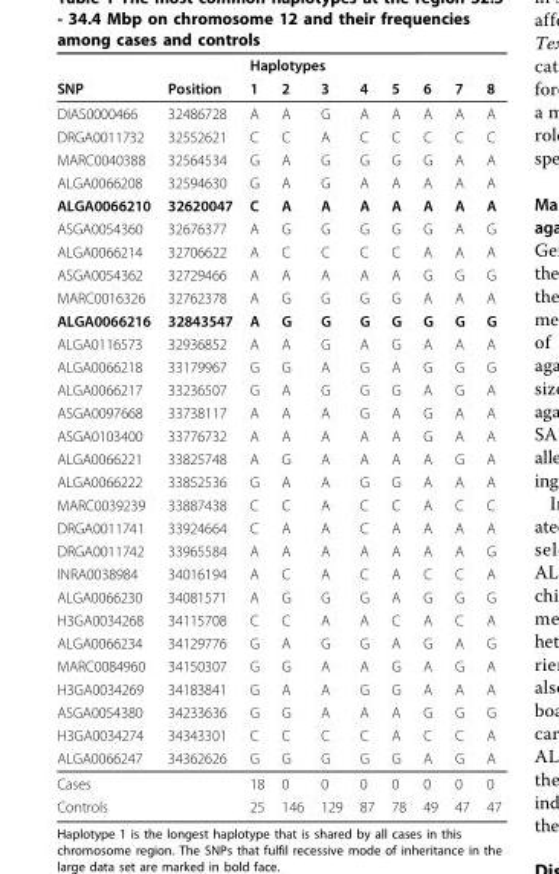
<table><thead><tr><td rowspan="2">SNP</td><td rowspan="2">Position</td><td colspan="8">Haplotypes</td></tr><tr><td>1</td><td>2</td><td>3</td><td>4</td><td>5</td><td>6</td><td>7</td><td>8</td></tr></thead><tbody><tr><td>DIAS0000466</td><td>32486728</td><td>A</td><td>A</td><td>G</td><td>A</td><td>A</td><td>A</td><td>A</td><td>A</td></tr><tr><td>DRGA0011732</td><td>32552621</td><td>C</td><td>C</td><td>A</td><td>C</td><td>C</td><td>C</td><td>C</td><td>C</td></tr><tr><td>MARC0040388</td><td>32564534</td><td>G</td><td>A</td><td>G</td><td>G</td><td>G</td><td>G</td><td>A</td><td>A</td></tr><tr><td>ALGA0066208</td><td>32594630</td><td>G</td><td>A</td><td>G</td><td>A</td><td>A</td><td>A</td><td>A</td><td>A</td></tr><tr><td>ALGA0066210</td><td>32620047</td><td>C</td><td>A</td><td>A</td><td>A</td><td>A</td><td>A</td><td>A</td><td>A</td></tr><tr><td>ASGA0054360</td><td>32676377</td><td>A</td><td>G</td><td>G</td><td>G</td><td>G</td><td>G</td><td>A</td><td>G</td></tr><tr><td>ALGA0066214</td><td>32706622</td><td>A</td><td>C</td><td>C</td><td>C</td><td>C</td><td>A</td><td>A</td><td>A</td></tr><tr><td>ASGA0054362</td><td>32729466</td><td>A</td><td>A</td><td>A</td><td>A</td><td>A</td><td>G</td><td>G</td><td>G</td></tr><tr><td>MARC0016326</td><td>32762378</td><td>A</td><td>G</td><td>G</td><td>G</td><td>G</td><td>A</td><td>A</td><td>A</td></tr><tr><td>ALGA0066216</td><td>32843547</td><td>A</td><td>G</td><td>G</td><td>G</td><td>G</td><td>G</td><td>G</td><td>G</td></tr><tr><td>ALGA0116573</td><td>32936852</td><td>A</td><td>A</td><td>G</td><td>A</td><td>G</td><td>A</td><td>A</td><td>A</td></tr><tr><td>ALGA0066218</td><td>33179967</td><td>G</td><td>G</td><td>A</td><td>G</td><td>A</td><td>G</td><td>G</td><td>G</td></tr><tr><td>ALGA0066217</td><td>33236507</td><td>G</td><td>A</td><td>G</td><td>G</td><td>G</td><td>A</td><td>G</td><td>A</td></tr><tr><td>ASGA0097668</td><td>33738117</td><td>A</td><td>A</td><td>A</td><td>G</td><td>A</td><td>G</td><td>A</td><td>A</td></tr><tr><td>ASGA0103400</td><td>33776732</td><td>A</td><td>A</td><td>A</td><td>A</td><td>A</td><td>G</td><td>A</td><td>A</td></tr><tr><td>ALGA0066221</td><td>33825748</td><td>A</td><td>G</td><td>A</td><td>A</td><td>A</td><td>A</td><td>G</td><td>A</td></tr><tr><td>ALGA0066222</td><td>33852536</td><td>G</td><td>A</td><td>A</td><td>G</td><td>G</td><td>A</td><td>A</td><td>A</td></tr><tr><td>MARC0039239</td><td>33887438</td><td>C</td><td>C</td><td>A</td><td>C</td><td>C</td><td>A</td><td>C</td><td>C</td></tr><tr><td>DRGA0011741</td><td>33924664</td><td>C</td><td>A</td><td>A</td><td>C</td><td>A</td><td>A</td><td>A</td><td>A</td></tr><tr><td>DRGA0011742</td><td>33965584</td><td>A</td><td>A</td><td>A</td><td>A</td><td>A</td><td>A</td><td>A</td><td>G</td></tr><tr><td>INRA0038984</td><td>34016194</td><td>A</td><td>C</td><td>A</td><td>C</td><td>A</td><td>C</td><td>C</td><td>A</td></tr><tr><td>ALGA0066230</td><td>34081571</td><td>A</td><td>G</td><td>G</td><td>G</td><td>A</td><td>G</td><td>G</td><td>G</td></tr><tr><td>H3GA0034268</td><td>34115708</td><td>C</td><td>C</td><td>A</td><td>A</td><td>C</td><td>A</td><td>C</td><td>A</td></tr><tr><td>ALGA0066234</td><td>34129776</td><td>G</td><td>A</td><td>G</td><td>G</td><td>A</td><td>G</td><td>A</td><td>G</td></tr><tr><td>MARC0084960</td><td>34150307</td><td>G</td><td>G</td><td>A</td><td>A</td><td>G</td><td>A</td><td>G</td><td>A</td></tr><tr><td>H3GA0034269</td><td>34183841</td><td>G</td><td>A</td><td>A</td><td>G</td><td>G</td><td>A</td><td>A</td><td>A</td></tr><tr><td>ASGA0054380</td><td>34233636</td><td>G</td><td>G</td><td>A</td><td>A</td><td>A</td><td>G</td><td>G</td><td>G</td></tr><tr><td>H3GA0034274</td><td>34343301</td><td>C</td><td>C</td><td>C</td><td>C</td><td>A</td><td>C</td><td>C</td><td>A</td></tr><tr><td>ALGA0066247</td><td>34362626</td><td>G</td><td>G</td><td>G</td><td>G</td><td>G</td><td>A</td><td>G</td><td>A</td></tr><tr><td>Cases</td><td></td><td>18</td><td>0</td><td>0</td><td>0</td><td>0</td><td>0</td><td>0</td><td>0</td></tr><tr><td>Controls</td><td></td><td>25</td><td>146</td><td>129</td><td>87</td><td>78</td><td>49</td><td>47</td><td>47</td></tr></tbody></table>